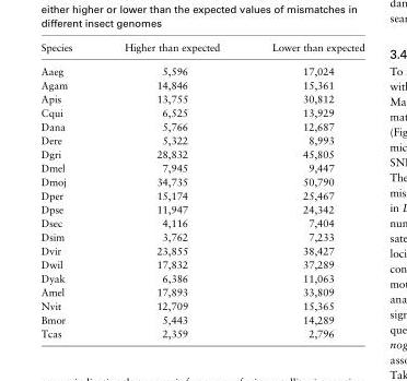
<table><thead><tr><td>Species</td><td>Higher than expected</td><td>Lower than expected</td></tr></thead><tbody><tr><td>Aaeg</td><td>5,596</td><td>17,024</td></tr><tr><td>Agam</td><td>14,846</td><td>15,361</td></tr><tr><td>Apis</td><td>13,755</td><td>30,812</td></tr><tr><td>Cqui</td><td>6,525</td><td>13,929</td></tr><tr><td>Dana</td><td>5,766</td><td>12,687</td></tr><tr><td>Dere</td><td>5,322</td><td>8,993</td></tr><tr><td>Dgri</td><td>28,832</td><td>45,805</td></tr><tr><td>Dmel</td><td>7,945</td><td>9,447</td></tr><tr><td>Dmoj</td><td>34,735</td><td>50,790</td></tr><tr><td>Dper</td><td>15,174</td><td>25,467</td></tr><tr><td>Dpse</td><td>11,947</td><td>24,342</td></tr><tr><td>Dsec</td><td>4,116</td><td>7,404</td></tr><tr><td>Dsim</td><td>3,762</td><td>7,233</td></tr><tr><td>Dvir</td><td>23,855</td><td>38,427</td></tr><tr><td>Dwil</td><td>17,832</td><td>37,289</td></tr><tr><td>Dyak</td><td>6,386</td><td>11,063</td></tr><tr><td>Amel</td><td>17,893</td><td>33,809</td></tr><tr><td>Nvit</td><td>12,709</td><td>15,365</td></tr><tr><td>Bmor</td><td>5,443</td><td>14,289</td></tr><tr><td>Tcas</td><td>2,359</td><td>2,796</td></tr></tbody></table>